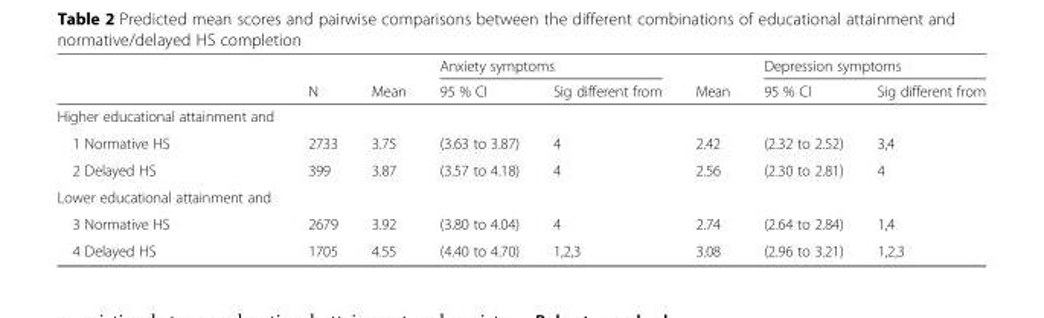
<table><thead><tr><td rowspan="2"></td><td rowspan="2">N</td><td rowspan="2">Mean</td><td colspan="2">Anxiety symptoms</td><td rowspan="2">Mean</td><td colspan="2">Depression symptoms</td></tr><tr><td>95 % CI</td><td>Sig different from</td><td>95 % CI</td><td>Sig different from</td></tr></thead><tbody><tr><td colspan="8">Higher educational attainment and</td></tr><tr><td>1 Normative HS</td><td>2733</td><td>3.75</td><td>(3.63 to 3.87)</td><td>4</td><td>2.42</td><td>(2.32 to 2.52)</td><td>3,4</td></tr><tr><td>2 Delayed HS</td><td>399</td><td>3.87</td><td>(3.57 to 4.18)</td><td>4</td><td>2.56</td><td>(2.30 to 2.81)</td><td>4</td></tr><tr><td colspan="8">Lower educational attainment and</td></tr><tr><td>3 Normative HS</td><td>2679</td><td>3.92</td><td>(3.80 to 4.04)</td><td>4</td><td>2.74</td><td>(2.64 to 2.84)</td><td>1,4</td></tr><tr><td>4 Delayed HS</td><td>1705</td><td>4.55</td><td>(4.40 to 4.70)</td><td>1,2,3</td><td>3.08</td><td>(2.96 to 3.21)</td><td>1,2,3</td></tr></tbody></table>